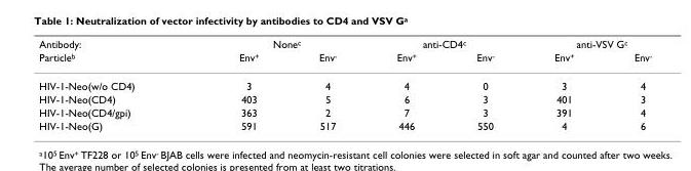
<table><thead><tr><td rowspan="2">Antibody: Particle<sup>b</sup></td><td colspan="2">None<sup>c</sup></td><td colspan="2">anti-CD4<sup>c</sup></td><td colspan="2">anti-VSV G<sup>c</sup></td></tr><tr><td>Env<sup>+</sup></td><td>Env<sup>-</sup></td><td>Env<sup>+</sup></td><td>Env<sup>-</sup></td><td>Env<sup>+</sup></td><td>Env<sup>-</sup></td></tr></thead><tbody><tr><td>HIV-1-Neo(w/o CD4)</td><td>3</td><td>4</td><td>4</td><td>0</td><td>3</td><td>4</td></tr><tr><td>HIV-1-Neo(CD4)</td><td>403</td><td>5</td><td>6</td><td>3</td><td>401</td><td>3</td></tr><tr><td>HIV-1-Neo(CD4/gpi)</td><td>363</td><td>2</td><td>7</td><td>3</td><td>391</td><td>4</td></tr><tr><td>HIV-1-Neo(G)</td><td>591</td><td>517</td><td>446</td><td>550</td><td>4</td><td>6</td></tr></tbody></table>